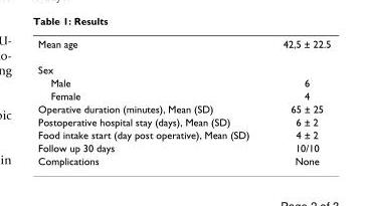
<table><tbody><tr><td>Mean age</td><td>42,5 ± 22.5</td></tr><tr><td colspan="2">Sex</td></tr><tr><td>Male</td><td>6</td></tr><tr><td>Female</td><td>4</td></tr><tr><td>Operative duration (minutes), Mean (SD)</td><td>65 ± 25</td></tr><tr><td>Postoperative hospital stay (days), Mean (SD)</td><td>6 ± 2</td></tr><tr><td>Food intake start (day post operative), Mean (SD)</td><td>4 ± 2</td></tr><tr><td>Follow up 30 days</td><td>10/10</td></tr><tr><td>Complications</td><td>None</td></tr></tbody></table>